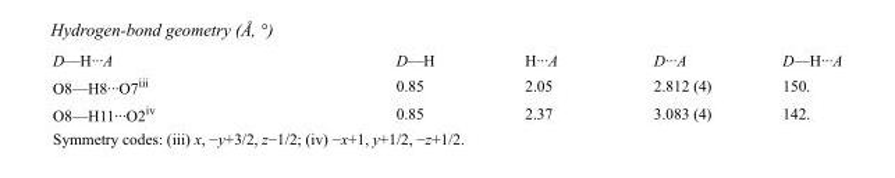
<table><tbody><tr><td>D—H···A</td><td>D—H</td><td>H···A</td><td>D···A</td><td>D—H···A</td></tr><tr><td>O8—H8···O7<sup>iii</sup></td><td>0.85</td><td>2.05</td><td>2.812 (4)</td><td>150.</td></tr><tr><td>O8—H11···O2<sup>iv</sup></td><td>0.85</td><td>2.37</td><td>3.083 (4)</td><td>142.</td></tr></tbody></table>